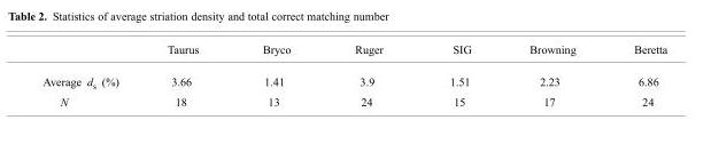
<table><thead><tr><td></td><td>Taurus</td><td>Bryco</td><td>Ruger</td><td>SIG</td><td>Browning</td><td>Beretta</td></tr></thead><tbody><tr><td>Average d<sub>s</sub> (%)</td><td>3.66</td><td>1.41</td><td>3.9</td><td>1.51</td><td>2.23</td><td>6.86</td></tr><tr><td>N</td><td>18</td><td>13</td><td>24</td><td>15</td><td>17</td><td>24</td></tr></tbody></table>